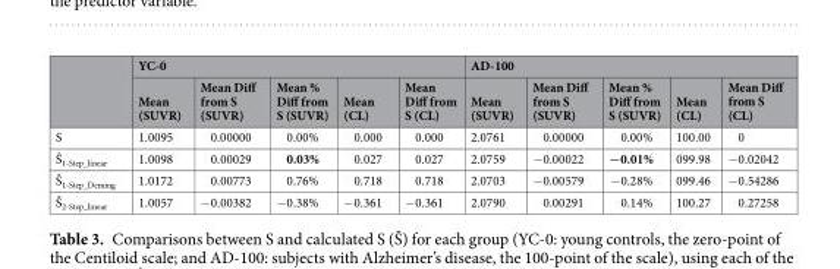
<table><thead><tr><td rowspan="2"></td><td colspan="5">YC-0</td><td colspan="5">AD-100</td></tr><tr><td>Mean (SUVR)</td><td>Mean Diff from S (SUVR)</td><td>Mean % Diff from S (SUVR)</td><td>Mean (CL)</td><td>Mean Diff from S (CL)</td><td>Mean (SUVR)</td><td>Mean Diff from S (SUVR)</td><td>Mean % Diff from S (SUVR)</td><td>Mean (CL)</td><td>Mean Diff from S (CL)</td></tr></thead><tbody><tr><td>S</td><td>1.0095</td><td>0.00000</td><td>0.00%</td><td>0.000</td><td>0.000</td><td>2.0761</td><td>0.00000</td><td>0.00%</td><td>100.00</td><td>0</td></tr><tr><td>Ŝ<sub>1-Step_linear</sub></td><td>1.0098</td><td>0.00029</td><td>0.03%</td><td>0.027</td><td>0.027</td><td>2.0759</td><td>−0.00022</td><td>−0.01%</td><td>099.98</td><td>−0.02042</td></tr><tr><td>Ŝ<sub>1-Step_Deming</sub></td><td>1.0172</td><td>0.00773</td><td>0.76%</td><td>0.718</td><td>0.718</td><td>2.0703</td><td>−0.00579</td><td>−0.28%</td><td>099.46</td><td>−0.54286</td></tr><tr><td>Ŝ<sub>2-Step_linear</sub></td><td>1.0057</td><td>−0.00382</td><td>−0.38%</td><td>−0.361</td><td>−0.361</td><td>2.0790</td><td>0.00291</td><td>0.14%</td><td>100.27</td><td>0.27258</td></tr></tbody></table>